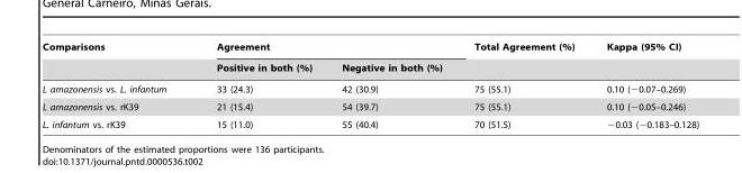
<table><thead><tr><td rowspan="2">Comparisons</td><td colspan="2">Agreement</td><td rowspan="2">Total Agreement (%)</td><td rowspan="2">Kappa (95% CI)</td></tr><tr><td>Positive in both (%)</td><td>Negative in both (%)</td></tr></thead><tbody><tr><td>L amazonensis vs. L. infantum</td><td>33 (24.3)</td><td>42 (30.9)</td><td>75 (55.1)</td><td>0.10 (−0.07–0.269)</td></tr><tr><td>L amazonensis vs. rK39</td><td>21 (15.4)</td><td>54 (39.7)</td><td>75 (55.1)</td><td>0.10 (−0.05–0.246)</td></tr><tr><td>L. infantum vs. rK39</td><td>15 (11.0)</td><td>55 (40.4)</td><td>70 (51.5)</td><td>−0.03 (−0.183–0.128)</td></tr></tbody></table>